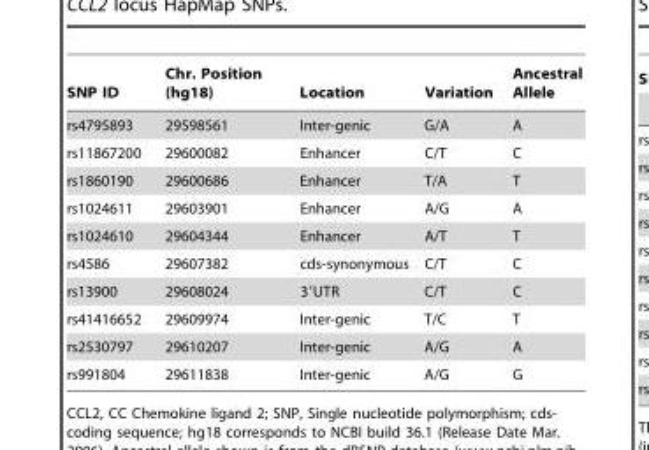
<table><thead><tr><td>SNP ID</td><td>Chr. Position (hg18)</td><td>Location</td><td>Variation</td><td>Ancestral Allele</td></tr></thead><tbody><tr><td>rs4795893</td><td>29598561</td><td>Inter-genic</td><td>G/A</td><td>A</td></tr><tr><td>rs11867200</td><td>29600082</td><td>Enhancer</td><td>C/T</td><td>C</td></tr><tr><td>rs1860190</td><td>29600686</td><td>Enhancer</td><td>T/A</td><td>T</td></tr><tr><td>rs1024611</td><td>29603901</td><td>Enhancer</td><td>A/G</td><td>A</td></tr><tr><td>rs1024610</td><td>29604344</td><td>Enhancer</td><td>A/T</td><td>T</td></tr><tr><td>rs4586</td><td>29607382</td><td>cds-synonymous</td><td>C/T</td><td>C</td></tr><tr><td>rs13900</td><td>29608024</td><td>3′UTR</td><td>C/T</td><td>C</td></tr><tr><td>rs41416652</td><td>29609974</td><td>Inter-genic</td><td>T/C</td><td>T</td></tr><tr><td>rs2530797</td><td>29610207</td><td>Inter-genic</td><td>A/G</td><td>A</td></tr><tr><td>rs991804</td><td>29611838</td><td>Inter-genic</td><td>A/G</td><td>G</td></tr></tbody></table>